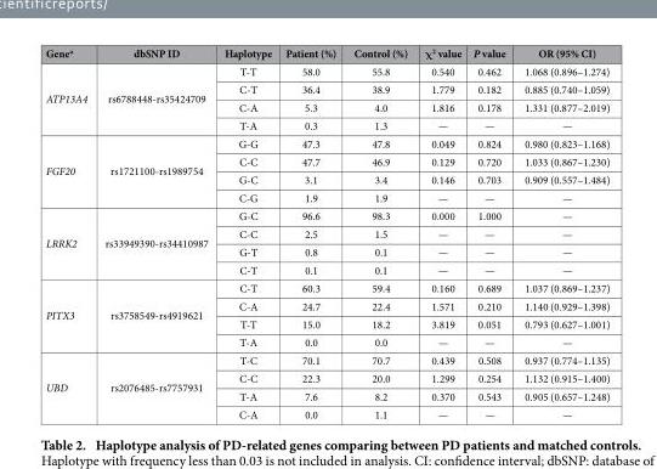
<table><thead><tr><td>Gene<sup>a</sup></td><td>dbSNP ID</td><td>Haplotype</td><td>Patient (%)</td><td>Control (%)</td><td>χ<sup>2</sup> value</td><td>P value</td><td>OR (95% CI)</td></tr></thead><tbody><tr><td rowspan="4">ATP13A4</td><td rowspan="4">rs6788448-rs35424709</td><td>T-T</td><td>58.0</td><td>55.8</td><td>0.540</td><td>0.462</td><td>1.068 (0.896–1.274)</td></tr><tr><td>C-T</td><td>36.4</td><td>38.9</td><td>1.779</td><td>0.182</td><td>0.885 (0.740–1.059)</td></tr><tr><td>C-A</td><td>5.3</td><td>4.0</td><td>1.816</td><td>0.178</td><td>1.331 (0.877–2.019)</td></tr><tr><td>T-A</td><td>0.3</td><td>1.3</td><td>—</td><td>—</td><td>—</td></tr><tr><td rowspan="4">FGF20</td><td rowspan="4">rs1721100-rs1989754</td><td>G-G</td><td>47.3</td><td>47.8</td><td>0.049</td><td>0.824</td><td>0.980 (0.823–1.168)</td></tr><tr><td>C-C</td><td>47.7</td><td>46.9</td><td>0.129</td><td>0.720</td><td>1.033 (0.867–1.230)</td></tr><tr><td>G-C</td><td>3.1</td><td>3.4</td><td>0.146</td><td>0.703</td><td>0.909 (0.557–1.484)</td></tr><tr><td>C-G</td><td>1.9</td><td>1.9</td><td>—</td><td>—</td><td>—</td></tr><tr><td rowspan="4">LRRK2</td><td rowspan="4">rs33949390-rs34410987</td><td>G-C</td><td>96.6</td><td>98.3</td><td>0.000</td><td>1.000</td><td>—</td></tr><tr><td>C-C</td><td>2.5</td><td>1.5</td><td>—</td><td>—</td><td>—</td></tr><tr><td>G-T</td><td>0.8</td><td>0.1</td><td>—</td><td>—</td><td>—</td></tr><tr><td>C-T</td><td>0.1</td><td>0.1</td><td>—</td><td>—</td><td>—</td></tr><tr><td rowspan="4">PITX3</td><td rowspan="4">rs3758549-rs4919621</td><td>C-T</td><td>60.3</td><td>59.4</td><td>0.160</td><td>0.689</td><td>1.037 (0.869–1.237)</td></tr><tr><td>C-A</td><td>24.7</td><td>22.4</td><td>1.571</td><td>0.210</td><td>1.140 (0.929–1.398)</td></tr><tr><td>T-T</td><td>15.0</td><td>18.2</td><td>3.819</td><td>0.051</td><td>0.793 (0.627–1.001)</td></tr><tr><td>T-A</td><td>0.0</td><td>0.0</td><td>—</td><td>—</td><td>—</td></tr><tr><td rowspan="4">UBD</td><td rowspan="4">rs2076485-rs7757931</td><td>T-C</td><td>70.1</td><td>70.7</td><td>0.439</td><td>0.508</td><td>0.937 (0.774–1.135)</td></tr><tr><td>C-C</td><td>22.3</td><td>20.0</td><td>1.299</td><td>0.254</td><td>1.132 (0.915–1.400)</td></tr><tr><td>T-A</td><td>7.6</td><td>8.2</td><td>0.370</td><td>0.543</td><td>0.905 (0.657–1.248)</td></tr><tr><td>C-A</td><td>0.0</td><td>1.1</td><td>—</td><td>—</td><td>—</td></tr></tbody></table>